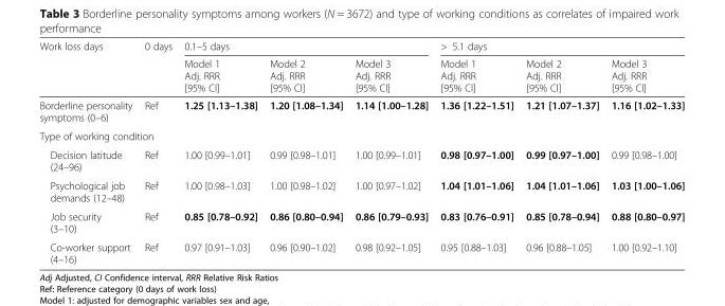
<table><thead><tr><td rowspan="2">Work loss days</td><td rowspan="2">0 days</td><td colspan="3">0.1–5 days</td><td colspan="3">&gt; 5.1 days</td></tr><tr><td>Model 1 Adj. RRR [95% CI]</td><td>Model 2 Adj. RRR [95% CI]</td><td>Model 3 Adj. RRR [95% CI]</td><td>Model 1 Adj. RRR [95% CI]</td><td>Model 2 Adj. RRR [95% CI]</td><td>Model 3 Adj. RRR [95% CI]</td></tr></thead><tbody><tr><td>Borderline personality symptoms (0–6)</td><td>Ref</td><td>1.25 [1.13–1.38]</td><td>1.20 [1.08–1.34]</td><td>1.14 [1.00–1.28]</td><td>1.36 [1.22–1.51]</td><td>1.21 [1.07–1.37]</td><td>1.16 [1.02–1.33]</td></tr><tr><td colspan="8">Type of working condition</td></tr><tr><td>Decision latitude (24–96)</td><td>Ref</td><td>1.00 [0.99–1.01]</td><td>0.99 [0.98–1.01]</td><td>1.00 [0.99–1.01]</td><td>0.98 [0.97–1.00]</td><td>0.99 [0.97–1.00]</td><td>0.99 [0.98–1.00]</td></tr><tr><td>Psychological job demands (12–48)</td><td>Ref</td><td>1.00 [0.98–1.03]</td><td>1.00 [0.98–1.02]</td><td>1.00 [0.97–1.02]</td><td>1.04 [1.01–1.06]</td><td>1.04 [1.01–1.06]</td><td>1.03 [1.00–1.06]</td></tr><tr><td>Job security (3–10)</td><td>Ref</td><td>0.85 [0.78–0.92]</td><td>0.86 [0.80–0.94]</td><td>0.86 [0.79–0.93]</td><td>0.83 [0.76–0.91]</td><td>0.85 [0.78–0.94]</td><td>0.88 [0.80–0.97]</td></tr><tr><td>Co-worker support (4–16)</td><td>Ref</td><td>0.97 [0.91–1.03]</td><td>0.96 [0.90–1.02]</td><td>0.98 [0.92–1.05]</td><td>0.95 [0.88–1.03]</td><td>0.96 [0.88–1.05]</td><td>1.00 [0.92–1.10]</td></tr></tbody></table>